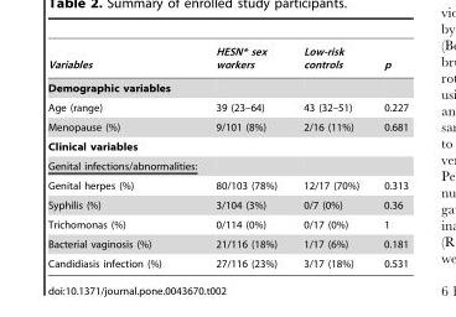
<table><thead><tr><td>Variables</td><td>HESN* sex workers</td><td>Low-risk controls</td><td>p</td></tr></thead><tbody><tr><td colspan="4">Demographic variables</td></tr><tr><td>Age (range)</td><td>39 (23–64)</td><td>43 (32–51)</td><td>0.227</td></tr><tr><td>Menopause (%)</td><td>9/101 (8%)</td><td>2/16 (11%)</td><td>0.681</td></tr><tr><td colspan="4">Clinical variables</td></tr><tr><td colspan="4">Genital infections/abnormalities:</td></tr><tr><td>Genital herpes (%)</td><td>80/103 (78%)</td><td>12/17 (70%)</td><td>0.313</td></tr><tr><td>Syphilis (%)</td><td>3/104 (3%)</td><td>0/7 (0%)</td><td>0.36</td></tr><tr><td>Trichomonas (%)</td><td>0/114 (0%)</td><td>0/17 (0%)</td><td>1</td></tr><tr><td>Bacterial vaginosis (%)</td><td>21/116 (18%)</td><td>1/17 (6%)</td><td>0.181</td></tr><tr><td>Candidiasis infection (%)</td><td>27/116 (23%)</td><td>3/17 (18%)</td><td>0.531</td></tr></tbody></table>